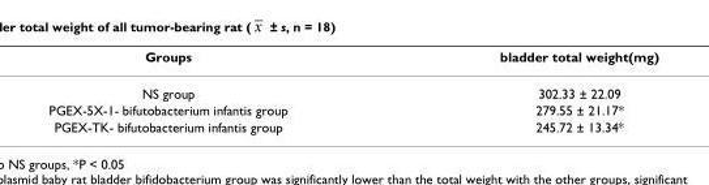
<table><thead><tr><td>Groups</td><td>bladder total weight(mg)</td></tr></thead><tbody><tr><td>NS group</td><td>302.33 ± 22.09</td></tr><tr><td>PGEX-5X-1- bifutobacterium infantis group</td><td>279.55 ± 21.17*</td></tr><tr><td>PGEX-TK- bifutobacterium infantis group</td><td>245.72 ± 13.34*</td></tr></tbody></table>